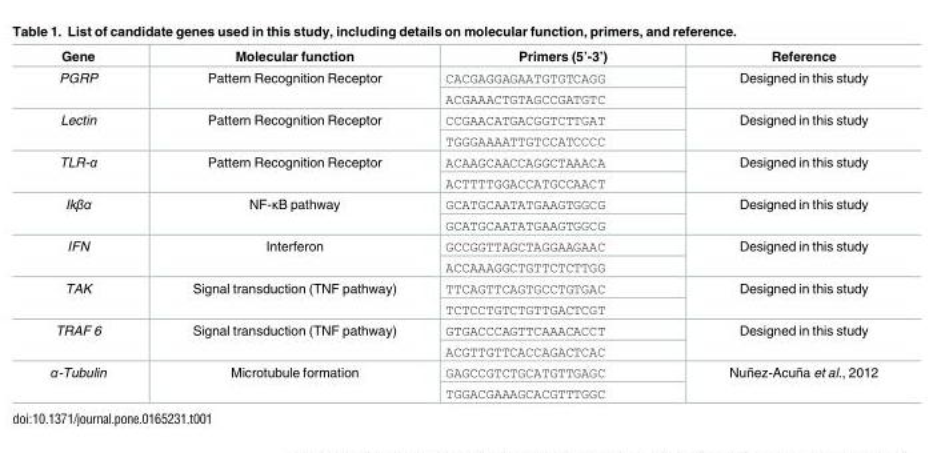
<table><thead><tr><td>Gene</td><td>Molecular function</td><td>Primers (5’-3’)</td><td>Reference</td></tr></thead><tbody><tr><td rowspan="2">PGRP</td><td rowspan="2">Pattern Recognition Receptor</td><td>CACGAGGAGAATGTGTCAGG</td><td rowspan="2">Designed in this study</td></tr><tr><td>ACGAAACTGTAGCCGATGTC</td></tr><tr><td rowspan="2">Lectin</td><td rowspan="2">Pattern Recognition Receptor</td><td>CCGAACATGACGGTCTTGAT</td><td rowspan="2">Designed in this study</td></tr><tr><td>TGGGAAAATTGTCCATCCCC</td></tr><tr><td rowspan="2">TLR-α</td><td rowspan="2">Pattern Recognition Receptor</td><td>ACAAGCAACCAGGCTAAACA</td><td rowspan="2">Designed in this study</td></tr><tr><td>ACTTTTGGACCATGCCAACT</td></tr><tr><td rowspan="2">Ikβα</td><td rowspan="2">NF-κB pathway</td><td>GCATGCAATATGAAGTGGCG</td><td rowspan="2">Designed in this study</td></tr><tr><td>GCATGCAATATGAAGTGGCG</td></tr><tr><td rowspan="2">IFN</td><td rowspan="2">Interferon</td><td>GCCGGTTAGCTAGGAAGAAC</td><td rowspan="2">Designed in this study</td></tr><tr><td>ACCAAAGGCTGTTCTCTTGG</td></tr><tr><td rowspan="2">TAK</td><td rowspan="2">Signal transduction (TNF pathway)</td><td>TTCAGTTCAGTGCCTGTGAC</td><td rowspan="2">Designed in this study</td></tr><tr><td>TCTCCTGTCTGTTGACTCGT</td></tr><tr><td rowspan="2">TRAF 6</td><td rowspan="2">Signal transduction (TNF pathway)</td><td>GTGACCCAGTTCAAACACCT</td><td rowspan="2">Designed in this study</td></tr><tr><td>ACGTTGTTCACCAGACTCAC</td></tr><tr><td rowspan="2">α-Tubulin</td><td rowspan="2">Microtubule formation</td><td>GAGCCGTCTGCATGTTGAGC</td><td rowspan="2">Nuñez-Acuña et al., 2012</td></tr><tr><td>TGGACGAAAGCACGTTTGGC</td></tr></tbody></table>